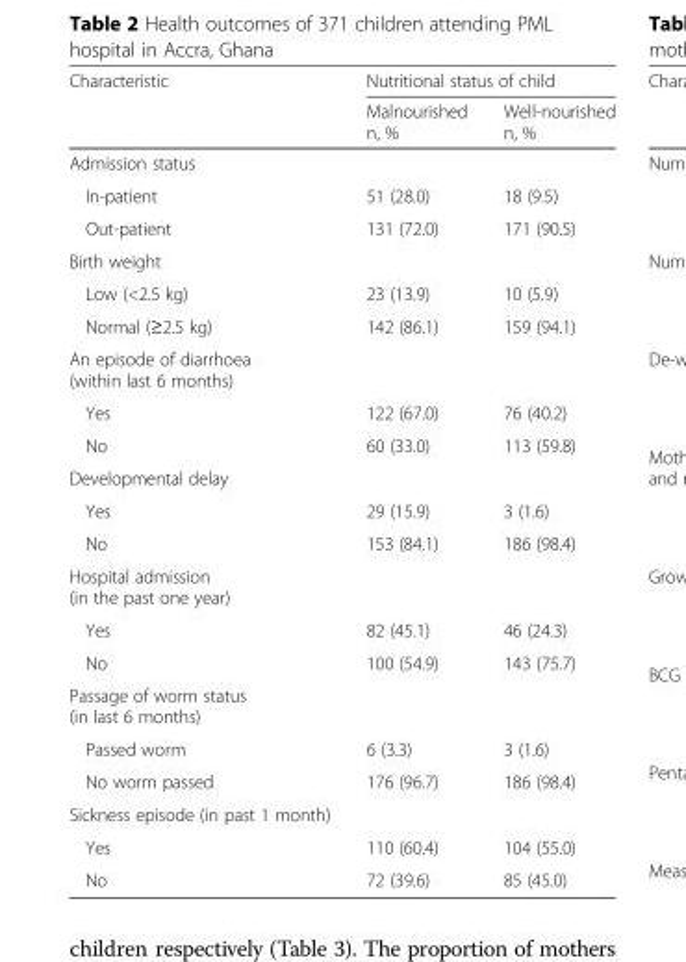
<table><thead><tr><td rowspan="2">Characteristic</td><td colspan="2">Nutritional status of child</td></tr><tr><td>Malnourished n, %</td><td>Well-nourished n, %</td></tr></thead><tbody><tr><td colspan="3">Admission status</td></tr><tr><td>In-patient</td><td>51 (28.0)</td><td>18 (9.5)</td></tr><tr><td>Out-patient</td><td>131 (72.0)</td><td>171 (90.5)</td></tr><tr><td colspan="3">Birth weight</td></tr><tr><td>Low (&lt;2.5 kg)</td><td>23 (13.9)</td><td>10 (5.9)</td></tr><tr><td>Normal (≥2.5 kg)</td><td>142 (86.1)</td><td>159 (94.1)</td></tr><tr><td colspan="3">An episode of diarrhoea (within last 6 months)</td></tr><tr><td>Yes</td><td>122 (67.0)</td><td>76 (40.2)</td></tr><tr><td>No</td><td>60 (33.0)</td><td>113 (59.8)</td></tr><tr><td colspan="3">Developmental delay</td></tr><tr><td>Yes</td><td>29 (15.9)</td><td>3 (1.6)</td></tr><tr><td>No</td><td>153 (84.1)</td><td>186 (98.4)</td></tr><tr><td colspan="3">Hospital admission (in the past one year)</td></tr><tr><td>Yes</td><td>82 (45.1)</td><td>46 (24.3)</td></tr><tr><td>No</td><td>100 (54.9)</td><td>143 (75.7)</td></tr><tr><td colspan="3">Passage of worm status (in last 6 months)</td></tr><tr><td>Passed worm</td><td>6 (3.3)</td><td>3 (1.6)</td></tr><tr><td>No worm passed</td><td>176 (96.7)</td><td>186 (98.4)</td></tr><tr><td colspan="3">Sickness episode (in past 1 month)</td></tr><tr><td>Yes</td><td>110 (60.4)</td><td>104 (55.0)</td></tr><tr><td>No</td><td>72 (39.6)</td><td>85 (45.0)</td></tr></tbody></table>